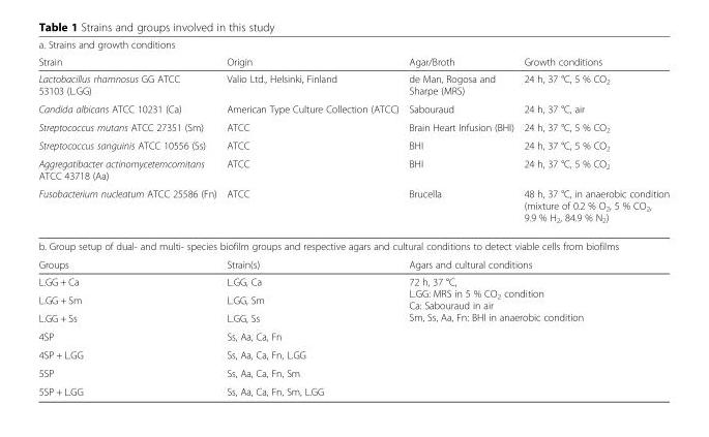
<table><thead><tr><td rowspan="2">a. Strains and growth conditions Strain</td><td rowspan="2">Origin</td><td rowspan="2">Agar/Broth</td><td rowspan="2">Growth conditions</td></tr><tr></tr></thead><tbody><tr><td>Lactobacillus rhamnosus GG ATCC 53103 (L.GG)</td><td>Valio Ltd., Helsinki, Finland</td><td>de Man, Rogosa and Sharpe (MRS)</td><td>24 h, 37 °C, 5 % CO<sub>2</sub></td></tr><tr><td>Candida albicans ATCC 10231 (Ca)</td><td>American Type Culture Collection (ATCC)</td><td>Sabouraud</td><td>24 h, 37 °C, air</td></tr><tr><td>Streptococcus mutans ATCC 27351 (Sm)</td><td>ATCC</td><td>Brain Heart Infusion (BHI)</td><td>24 h, 37 °C, 5 % CO<sub>2</sub></td></tr><tr><td>Streptococcus sanguinis ATCC 10556 (Ss)</td><td>ATCC</td><td>BHI</td><td>24 h, 37 °C, 5 % CO<sub>2</sub></td></tr><tr><td>Aggregatibacter actinomycetemcomitans ATCC 43718 (Aa)</td><td>ATCC</td><td>BHI</td><td>24 h, 37 °C, 5 % CO<sub>2</sub></td></tr><tr><td>Fusobacterium nucleatum ATCC 25586 (Fn)</td><td>ATCC</td><td>Brucella</td><td>48 h, 37 °C, in anaerobic condition (mixture of 0.2 % O<sub>2</sub>, 5 % CO<sub>2</sub>, 9.9 % H<sub>2</sub>, 84.9 % N<sub>2</sub>)</td></tr><tr><td colspan="4">b. Group setup of dual- and multi- species biofilm groups and respective agars and cultural conditions to detect viable cells from biofilms</td></tr><tr><td>Groups</td><td>Strain(s)</td><td colspan="2">Agars and cultural conditions</td></tr><tr><td>L.GG + Ca</td><td>L.GG, Ca</td><td rowspan="7" colspan="2">72 h, 37 °C, L.GG: MRS in 5 % CO<sub>2</sub> condition Ca: Sabouraud in air Sm, Ss, Aa, Fn: BHI in anaerobic condition</td></tr><tr><td>L.GG + Sm</td><td>L.GG, Sm</td></tr><tr><td>L.GG + Ss</td><td>L.GG, Ss</td></tr><tr><td>4SP</td><td>Ss, Aa, Ca, Fn</td></tr><tr><td>4SP + L.GG</td><td>Ss, Aa, Ca, Fn, L.GG</td></tr><tr><td>5SP</td><td>Ss, Aa, Ca, Fn, Sm</td></tr><tr><td>5SP + L.GG</td><td>Ss, Aa, Ca, Fn, Sm, L.GG</td></tr></tbody></table>